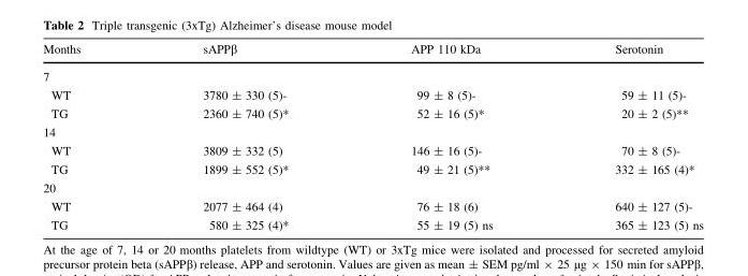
<table><thead><tr><td>Months</td><td>sAPPβ</td><td>APP 110 kDa</td><td>Serotonin</td></tr></thead><tbody><tr><td colspan="4">7</td></tr><tr><td>WT</td><td>3780 ± 330 (5)-</td><td>99 ± 8 (5)-</td><td>59 ± 11 (5)-</td></tr><tr><td>TG</td><td>2360 ± 740 (5)*</td><td>52 ± 16 (5)*</td><td>20 ± 2 (5)**</td></tr><tr><td colspan="4">14</td></tr><tr><td>WT</td><td>3809 ± 332 (5)</td><td>146 ± 16 (5)-</td><td>70 ± 8 (5)-</td></tr><tr><td>TG</td><td>1899 ± 552 (5)*</td><td>49 ± 21 (5)**</td><td>332 ± 165 (4)*</td></tr><tr><td colspan="4">20</td></tr><tr><td>WT</td><td>2077 ± 464 (4)</td><td>76 ± 18 (6)</td><td>640 ± 127 (5)-</td></tr><tr><td>TG</td><td>580 ± 325 (4)*</td><td>55 ± 19 (5) ns</td><td>365 ± 123 (5) ns</td></tr></tbody></table>